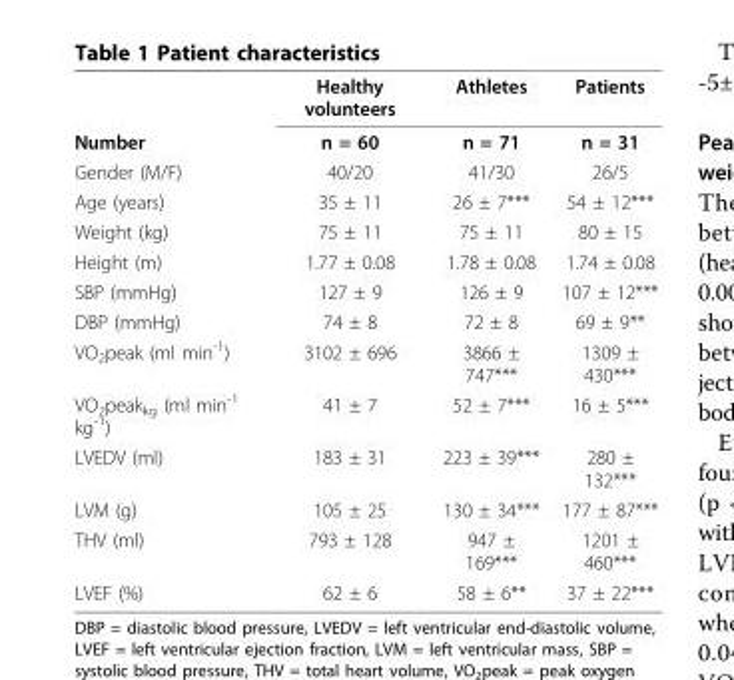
<table><thead><tr><td></td><td>Healthy volunteers</td><td>Athletes</td><td>Patients</td></tr></thead><tbody><tr><td>Number</td><td>n = 60</td><td>n = 71</td><td>n = 31</td></tr><tr><td>Gender (M/F)</td><td>40/20</td><td>41/30</td><td>26/5</td></tr><tr><td>Age (years)</td><td>35 ± 11</td><td>26 ± 7***</td><td>54 ± 12***</td></tr><tr><td>Weight (kg)</td><td>75 ± 11</td><td>75 ± 11</td><td>80 ± 15</td></tr><tr><td>Height (m)</td><td>1.77 ± 0.08</td><td>1.78 ± 0.08</td><td>1.74 ± 0.08</td></tr><tr><td>SBP (mmHg)</td><td>127 ± 9</td><td>126 ± 9</td><td>107 ± 12***</td></tr><tr><td>DBP (mmHg)</td><td>74 ± 8</td><td>72 ± 8</td><td>69 ± 9**</td></tr><tr><td>VO<sub>2</sub>peak (ml min<sup>-1</sup>)</td><td>3102 ± 696</td><td>3866 ± 747***</td><td>1309 ± 430***</td></tr><tr><td>VO<sub>2</sub>peak<sub>kg</sub> (ml min<sup>-1</sup> kg<sup>-1</sup>)</td><td>41 ± 7</td><td>52 ± 7***</td><td>16 ± 5***</td></tr><tr><td>LVEDV (ml)</td><td>183 ± 31</td><td>223 ± 39***</td><td>280 ± 132***</td></tr><tr><td>LVM (g)</td><td>105 ± 25</td><td>130 ± 34***</td><td>177 ± 87***</td></tr><tr><td>THV (ml)</td><td>793 ± 128</td><td>947 ± 169***</td><td>1201 ± 460***</td></tr><tr><td>LVEF (%)</td><td>62 ± 6</td><td>58 ± 6**</td><td>37 ± 22***</td></tr></tbody></table>